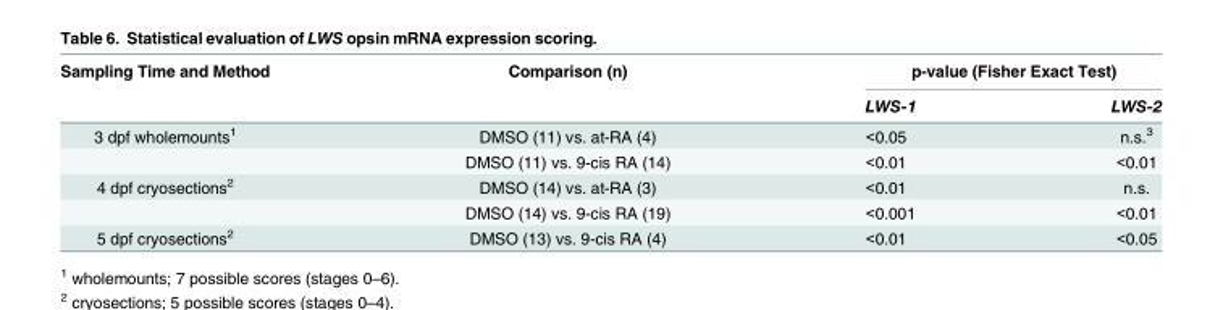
<table><thead><tr><td rowspan="2">Sampling Time and Method</td><td rowspan="2">Comparison (n)</td><td colspan="2">p-value (Fisher Exact Test)</td></tr><tr><td>LWS-1</td><td>LWS-2</td></tr></thead><tbody><tr><td rowspan="2">3 dpf wholemounts<sup>1</sup></td><td>DMSO (11) vs. at-RA (4)</td><td>&lt;0.05</td><td>n.s.<sup>3</sup></td></tr><tr><td>DMSO (11) vs. 9-cis RA (14)</td><td>&lt;0.01</td><td>&lt;0.01</td></tr><tr><td rowspan="2">4 dpf cryosections<sup>2</sup></td><td>DMSO (14) vs. at-RA (3)</td><td>&lt;0.01</td><td>n.s.</td></tr><tr><td>DMSO (14) vs. 9-cis RA (19)</td><td>&lt;0.001</td><td>&lt;0.01</td></tr><tr><td>5 dpf cryosections<sup>2</sup></td><td>DMSO (13) vs. 9-cis RA (4)</td><td>&lt;0.01</td><td>&lt;0.05</td></tr></tbody></table>